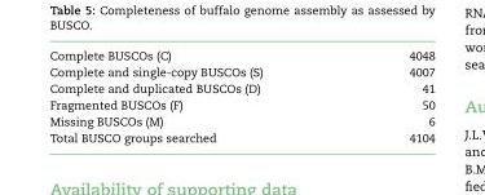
<table><tbody><tr><td>Complete BUSCOs (C)</td><td>4048</td></tr><tr><td>Complete and single-copy BUSCOs (S)</td><td>4007</td></tr><tr><td>Complete and duplicated BUSCOs (D)</td><td>41</td></tr><tr><td>Fragmented BUSCOs (F)</td><td>50</td></tr><tr><td>Missing BUSCOs (M)</td><td>6</td></tr><tr><td>Total BUSCO groups searched</td><td>4104</td></tr></tbody></table>